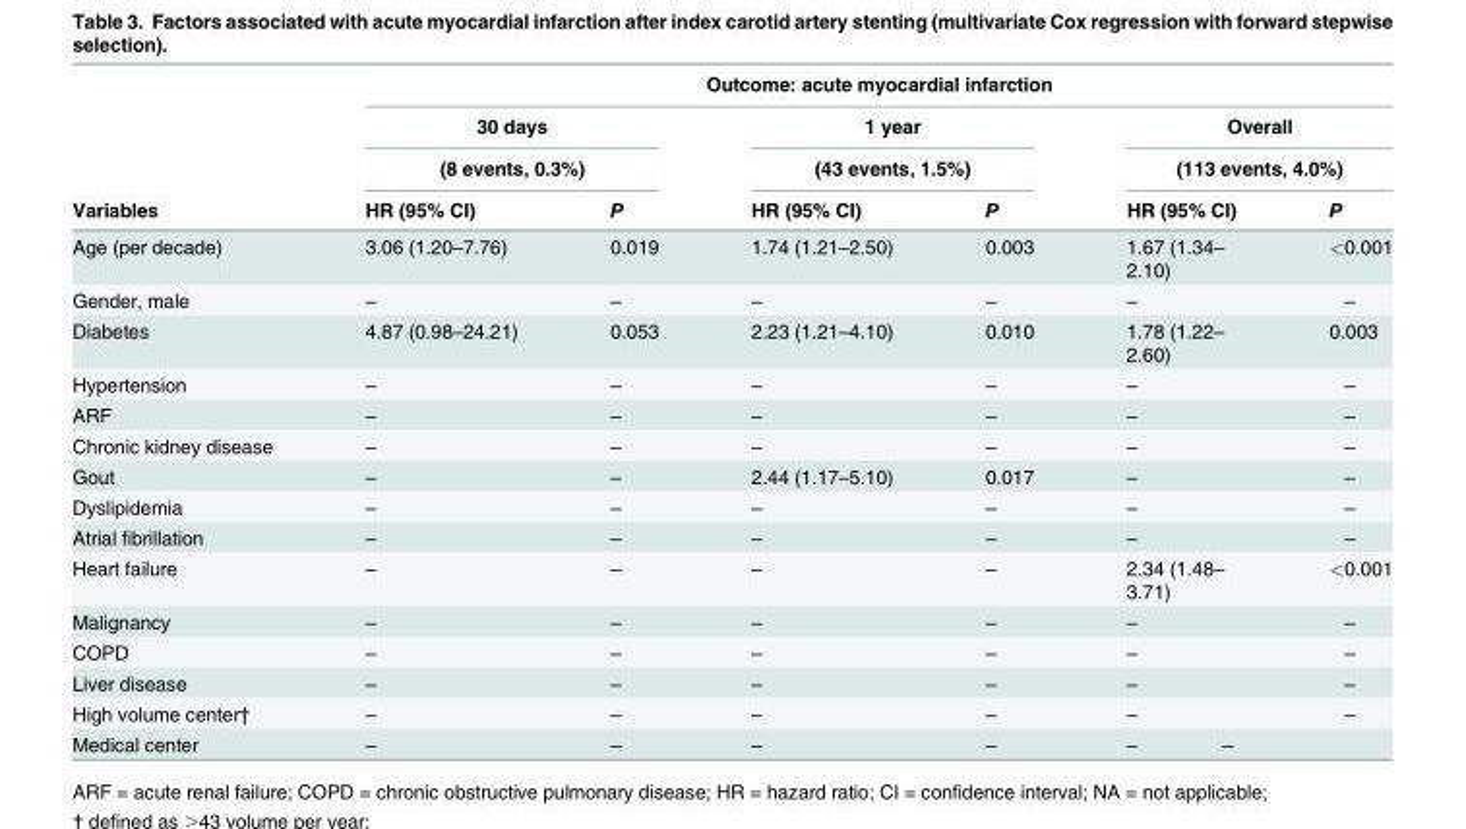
<table><thead><tr><td rowspan="4">Variables</td><td colspan="7">Outcome: acute myocardial infarction</td></tr><tr><td rowspan="2" colspan="2">30 days (8 events, 0.3%)</td><td rowspan="2" colspan="2">1 year (43 events, 1.5%)</td><td rowspan="2" colspan="3">Overall (113 events, 4.0%)</td></tr><tr></tr><tr><td>HR (95% CI)</td><td>P</td><td>HR (95% CI)</td><td>P</td><td colspan="2">HR (95% CI)</td><td>P</td></tr></thead><tbody><tr><td>Age (per decade)</td><td>3.06 (1.20–7.76)</td><td>0.019</td><td>1.74 (1.21–2.50)</td><td>0.003</td><td colspan="2">1.67 (1.34– 2.10)</td><td>&lt;0.001</td></tr><tr><td>Gender, male</td><td>–</td><td>–</td><td>–</td><td>–</td><td colspan="2">–</td><td>–</td></tr><tr><td>Diabetes</td><td>4.87 (0.98–24.21)</td><td>0.053</td><td>2.23 (1.21–4.10)</td><td>0.010</td><td colspan="2">1.78 (1.22– 2.60)</td><td>0.003</td></tr><tr><td>Hypertension</td><td>–</td><td>–</td><td>–</td><td>–</td><td colspan="2">–</td><td>–</td></tr><tr><td>ARF</td><td>–</td><td>–</td><td>–</td><td>–</td><td colspan="2">–</td><td>–</td></tr><tr><td>Chronic kidney disease</td><td>–</td><td>–</td><td>–</td><td>–</td><td colspan="2">–</td><td>–</td></tr><tr><td>Gout</td><td>–</td><td>–</td><td>2.44 (1.17–5.10)</td><td>0.017</td><td colspan="2">–</td><td>–</td></tr><tr><td>Dyslipidemia</td><td>–</td><td>–</td><td>–</td><td>–</td><td colspan="2">–</td><td>–</td></tr><tr><td>Atrial fibrillation</td><td>–</td><td>–</td><td>–</td><td>–</td><td colspan="2">–</td><td>–</td></tr><tr><td>Heart failure</td><td>–</td><td>–</td><td>–</td><td>–</td><td colspan="2">2.34 (1.48– 3.71)</td><td>&lt;0.001</td></tr><tr><td>Malignancy</td><td>–</td><td>–</td><td>–</td><td>–</td><td colspan="2">–</td><td>–</td></tr><tr><td>COPD</td><td>–</td><td>–</td><td>–</td><td>–</td><td colspan="2">–</td><td>–</td></tr><tr><td>Liver disease</td><td>–</td><td>–</td><td>–</td><td>–</td><td colspan="2">–</td><td>–</td></tr><tr><td>High volume center†</td><td>–</td><td>–</td><td>–</td><td>–</td><td colspan="2">–</td><td>–</td></tr><tr><td>Medical center</td><td>–</td><td>–</td><td>–</td><td>–</td><td>–</td><td colspan="2">–</td></tr></tbody></table>